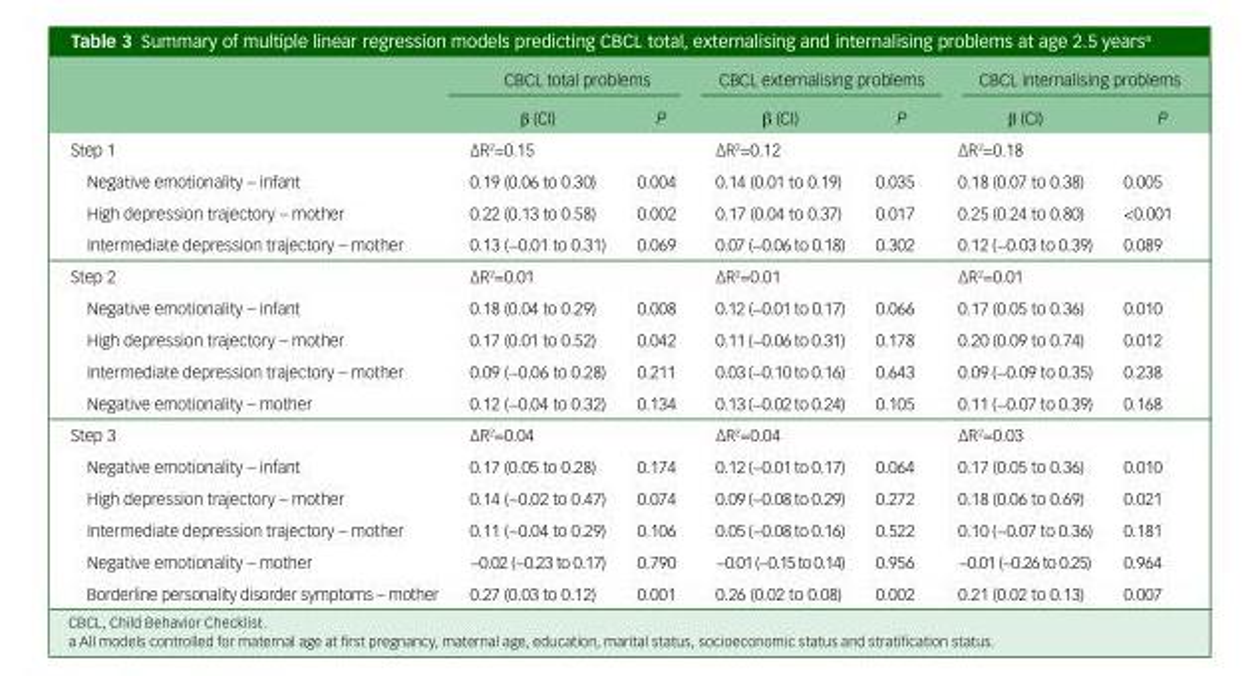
<table><thead><tr><td rowspan="2"></td><td colspan="2">CBCL total problems</td><td colspan="2">CBCL externalising problems</td><td colspan="2">CBCL internalising problems</td></tr><tr><td>β (CI)</td><td>P</td><td>β (CI)</td><td>P</td><td>β (CI)</td><td>P</td></tr></thead><tbody><tr><td>Step 1</td><td colspan="2">∆R2=0.15</td><td colspan="2">∆R2=0.12</td><td colspan="2">∆R2=0.18</td></tr><tr><td>Negative emotionality – infant</td><td>0.19 (0.06 to 0.30)</td><td>0.004</td><td>0.14 (0.01 to 0.19)</td><td>0.035</td><td>0.18 (0.07 to 0.38)</td><td>0.005</td></tr><tr><td>High depression trajectory – mother</td><td>0.22 (0.13 to 0.58)</td><td>0.002</td><td>0.17 (0.04 to 0.37)</td><td>0.017</td><td>0.25 (0.24 to 0.80)</td><td>&lt;0.001</td></tr><tr><td>Intermediate depression trajectory – mother</td><td>0.13 (−0.01 to 0.31)</td><td>0.069</td><td>0.07 (−0.06 to 0.18)</td><td>0.302</td><td>0.12 (−0.03 to 0.39)</td><td>0.089</td></tr><tr><td>Step 2</td><td colspan="2">∆R2=0.01</td><td colspan="2">∆R2=0.01</td><td colspan="2">∆R2=0.01</td></tr><tr><td>Negative emotionality – infant</td><td>0.18 (0.04 to 0.29)</td><td>0.008</td><td>0.12 (−0.01 to 0.17)</td><td>0.066</td><td>0.17 (0.05 to 0.36)</td><td>0.010</td></tr><tr><td>High depression trajectory – mother</td><td>0.17 (0.01 to 0.52)</td><td>0.042</td><td>0.11 (−0.06 to 0.31)</td><td>0.178</td><td>0.20 (0.09 to 0.74)</td><td>0.012</td></tr><tr><td>Intermediate depression trajectory – mother</td><td>0.09 (−0.06 to 0.28)</td><td>0.211</td><td>0.03 (−0.10 to 0.16)</td><td>0.643</td><td>0.09 (−0.09 to 0.35)</td><td>0.238</td></tr><tr><td>Negative emotionality – mother</td><td>0.12 (−0.04 to 0.32)</td><td>0.134</td><td>0.13 (−0.02 to 0.24)</td><td>0.105</td><td>0.11 (−0.07 to 0.39)</td><td>0.168</td></tr><tr><td>Step 3</td><td colspan="2">∆R2=0.04</td><td colspan="2">∆R2=0.04</td><td colspan="2">∆R2=0.03</td></tr><tr><td>Negative emotionality – infant</td><td>0.17 (0.05 to 0.28)</td><td>0.174</td><td>0.12 (−0.01 to 0.17)</td><td>0.064</td><td>0.17 (0.05 to 0.36)</td><td>0.010</td></tr><tr><td>High depression trajectory – mother</td><td>0.14 (−0.02 to 0.47)</td><td>0.074</td><td>0.09 (−0.08 to 0.29)</td><td>0.272</td><td>0.18 (0.06 to 0.69)</td><td>0.021</td></tr><tr><td>Intermediate depression trajectory – mother</td><td>0.11 (−0.04 to 0.29)</td><td>0.106</td><td>0.05 (−0.08 to 0.16)</td><td>0.522</td><td>0.10 (−0.07 to 0.36)</td><td>0.181</td></tr><tr><td>Negative emotionality – mother</td><td>−0.02 (−0.23 to 0.17)</td><td>0.790</td><td>−0.01 (−0.15 to 0.14)</td><td>0.956</td><td>−0.01 (−0.26 to 0.25)</td><td>0.964</td></tr><tr><td>Borderline personality disorder symptoms – mother</td><td>0.27 (0.03 to 0.12)</td><td>0.001</td><td>0.26 (0.02 to 0.08)</td><td>0.002</td><td>0.21 (0.02 to 0.13)</td><td>0.007</td></tr></tbody></table>